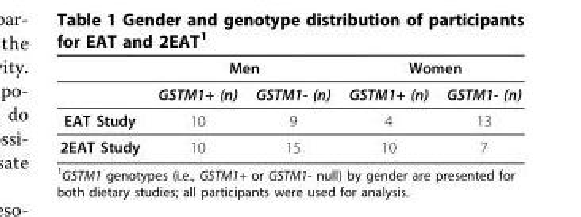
<table><thead><tr><td rowspan="2"></td><td colspan="2">Men</td><td colspan="2">Women</td></tr><tr><td>GSTM1+ (n)</td><td>GSTM1- (n)</td><td>GSTM1+ (n)</td><td>GSTM1- (n)</td></tr></thead><tbody><tr><td>EAT Study</td><td>10</td><td>9</td><td>4</td><td>13</td></tr><tr><td>2EAT Study</td><td>10</td><td>15</td><td>10</td><td>7</td></tr></tbody></table>